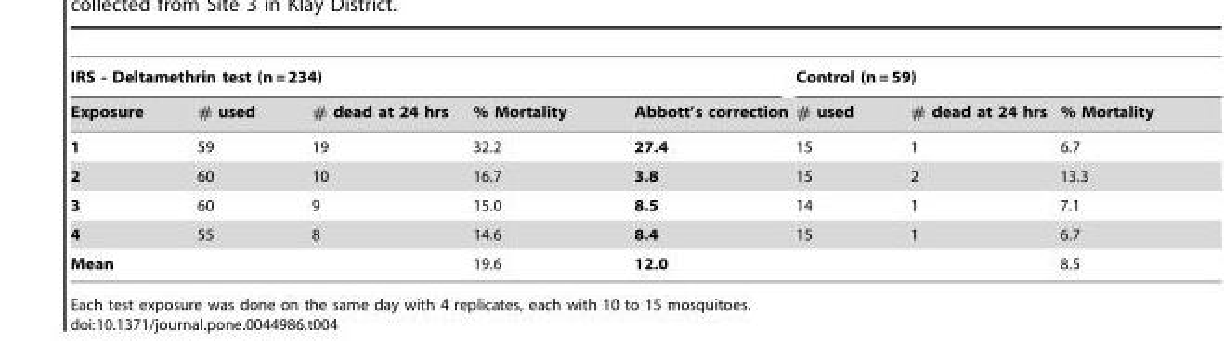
<table><thead><tr><td colspan="5">IRS - Deltamethrin test (n = 234)</td><td colspan="3">Control (n = 59)</td></tr><tr><td>Exposure</td><td># used</td><td># dead at 24 hrs</td><td>% Mortality</td><td>Abbott’s correction</td><td># used</td><td># dead at 24 hrs</td><td>% Mortality</td></tr></thead><tbody><tr><td>1</td><td>59</td><td>19</td><td>32.2</td><td>27.4</td><td>15</td><td>1</td><td>6.7</td></tr><tr><td>2</td><td>60</td><td>10</td><td>16.7</td><td>3.8</td><td>15</td><td>2</td><td>13.3</td></tr><tr><td>3</td><td>60</td><td>9</td><td>15.0</td><td>8.5</td><td>14</td><td>1</td><td>7.1</td></tr><tr><td>4</td><td>55</td><td>8</td><td>14.6</td><td>8.4</td><td>15</td><td>1</td><td>6.7</td></tr><tr><td>Mean</td><td></td><td></td><td>19.6</td><td>12.0</td><td></td><td></td><td>8.5</td></tr></tbody></table>